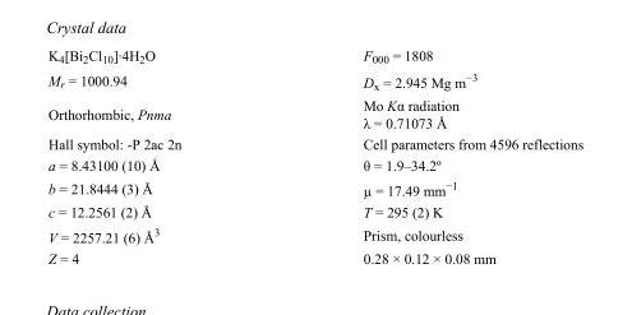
<table><tbody><tr><td>K<sub>4</sub>[Bi<sub>2</sub>Cl<sub>10</sub>]·4H<sub>2</sub>O</td><td>F<sub>000</sub> = 1808</td></tr><tr><td>M<sub>r</sub> = 1000.94</td><td>D<sub>x</sub> = 2.945 Mg m<sup>−3</sup></td></tr><tr><td>Orthorhombic, Pnma</td><td>Mo Kα radiation λ = 0.71073 Å</td></tr><tr><td>Hall symbol: -P 2ac 2n</td><td>Cell parameters from 4596 reflections</td></tr><tr><td>a = 8.43100 (10) Å</td><td>θ = 1.9–34.2º</td></tr><tr><td>b = 21.8444 (3) Å</td><td>µ = 17.49 mm<sup>−1</sup></td></tr><tr><td>c = 12.2561 (2) Å</td><td>T = 295 (2) K</td></tr><tr><td>V = 2257.21 (6) Å<sup>3</sup></td><td>Prism, colourless</td></tr><tr><td>Z = 4</td><td>0.28 × 0.12 × 0.08 mm</td></tr></tbody></table>